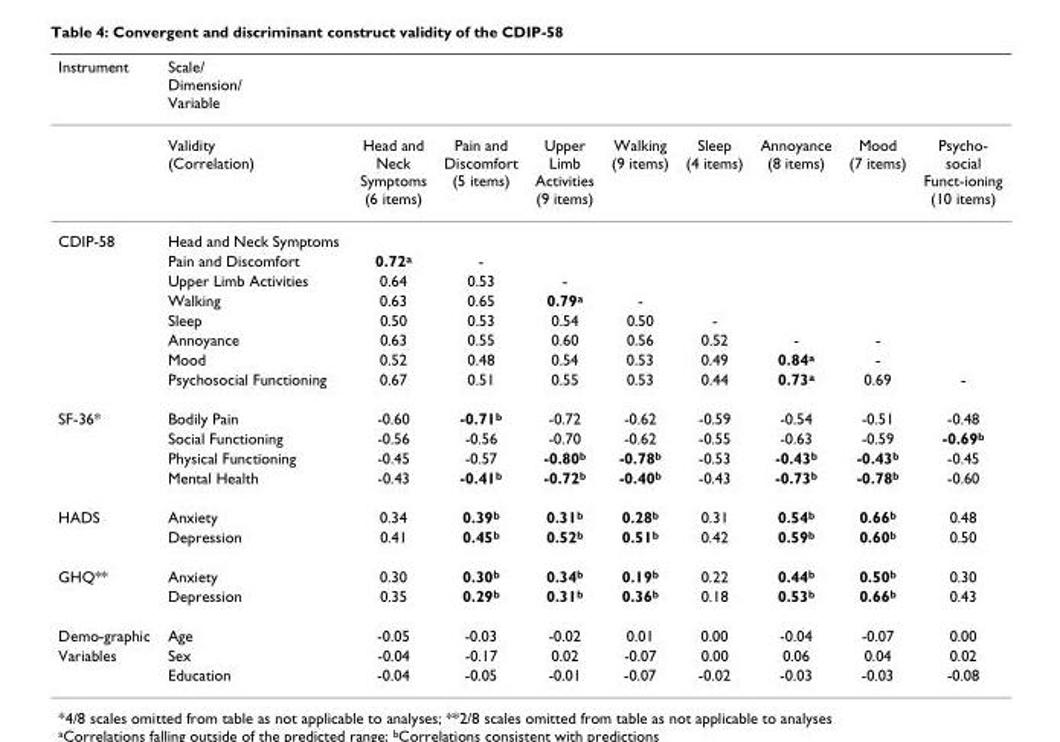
<table><thead><tr><td>Instrument</td><td>Scale/ Dimension/ Variable</td><td></td><td></td><td></td><td></td><td></td><td></td><td></td><td></td></tr></thead><tbody><tr><td></td><td>Validity (Correlation)</td><td>Head and Neck Symptoms (6 items)</td><td>Pain and Discomfort (5 items)</td><td>Upper Limb Activities (9 items)</td><td>Walking (9 items)</td><td>Sleep (4 items)</td><td>Annoyance (8 items)</td><td>Mood (7 items)</td><td>Psycho- social Funct-ioning (10 items)</td></tr><tr><td rowspan="8">CDIP-58</td><td>Head and Neck Symptoms</td><td></td><td></td><td></td><td></td><td></td><td></td><td></td><td></td></tr><tr><td>Pain and Discomfort</td><td>0.72<sup>a</sup></td><td>-</td><td></td><td></td><td></td><td></td><td></td><td></td></tr><tr><td>Upper Limb Activities</td><td>0.64</td><td>0.53</td><td>-</td><td></td><td></td><td></td><td></td><td></td></tr><tr><td>Walking</td><td>0.63</td><td>0.65</td><td>0.79<sup>a</sup></td><td>-</td><td></td><td></td><td></td><td></td></tr><tr><td>Sleep</td><td>0.50</td><td>0.53</td><td>0.54</td><td>0.50</td><td>-</td><td></td><td></td><td></td></tr><tr><td>Annoyance</td><td>0.63</td><td>0.55</td><td>0.60</td><td>0.56</td><td>0.52</td><td>-</td><td>-</td><td></td></tr><tr><td>Mood</td><td>0.52</td><td>0.48</td><td>0.54</td><td>0.53</td><td>0.49</td><td>0.84<sup>a</sup></td><td>-</td><td></td></tr><tr><td>Psychosocial Functioning</td><td>0.67</td><td>0.51</td><td>0.55</td><td>0.53</td><td>0.44</td><td>0.73<sup>a</sup></td><td>0.69</td><td>-</td></tr><tr><td rowspan="4">SF-36*</td><td>Bodily Pain</td><td>-0.60</td><td>-0.71<sup>b</sup></td><td>-0.72</td><td>-0.62</td><td>-0.59</td><td>-0.54</td><td>-0.51</td><td>-0.48</td></tr><tr><td>Social Functioning</td><td>-0.56</td><td>-0.56</td><td>-0.70</td><td>-0.62</td><td>-0.55</td><td>-0.63</td><td>-0.59</td><td>-0.69<sup>b</sup></td></tr><tr><td>Physical Functioning</td><td>-0.45</td><td>-0.57</td><td>-0.80<sup>b</sup></td><td>-0.78<sup>b</sup></td><td>-0.53</td><td>-0.43<sup>b</sup></td><td>-0.43<sup>b</sup></td><td>-0.45</td></tr><tr><td>Mental Health</td><td>-0.43</td><td>-0.41<sup>b</sup></td><td>-0.72<sup>b</sup></td><td>-0.40<sup>b</sup></td><td>-0.43</td><td>-0.73<sup>b</sup></td><td>-0.78<sup>b</sup></td><td>-0.60</td></tr><tr><td rowspan="2">HADS</td><td>Anxiety</td><td>0.34</td><td>0.39<sup>b</sup></td><td>0.31<sup>b</sup></td><td>0.28<sup>b</sup></td><td>0.31</td><td>0.54<sup>b</sup></td><td>0.66<sup>b</sup></td><td>0.48</td></tr><tr><td>Depression</td><td>0.41</td><td>0.45<sup>b</sup></td><td>0.52<sup>b</sup></td><td>0.51<sup>b</sup></td><td>0.42</td><td>0.59<sup>b</sup></td><td>0.60<sup>b</sup></td><td>0.50</td></tr><tr><td rowspan="2">GHQ**</td><td>Anxiety</td><td>0.30</td><td>0.30<sup>b</sup></td><td>0.34<sup>b</sup></td><td>0.19<sup>b</sup></td><td>0.22</td><td>0.44<sup>b</sup></td><td>0.50<sup>b</sup></td><td>0.30</td></tr><tr><td>Depression</td><td>0.35</td><td>0.29<sup>b</sup></td><td>0.31<sup>b</sup></td><td>0.36<sup>b</sup></td><td>0.18</td><td>0.53<sup>b</sup></td><td>0.66<sup>b</sup></td><td>0.43</td></tr><tr><td>Demo-graphic</td><td>Age</td><td>-0.05</td><td>-0.03</td><td>-0.02</td><td>0.01</td><td>0.00</td><td>-0.04</td><td>-0.07</td><td>0.00</td></tr><tr><td rowspan="2">Variables</td><td>Sex</td><td>-0.04</td><td>-0.17</td><td>0.02</td><td>-0.07</td><td>0.00</td><td>0.06</td><td>0.04</td><td>0.02</td></tr><tr><td>Education</td><td>-0.04</td><td>-0.05</td><td>-0.01</td><td>-0.07</td><td>-0.02</td><td>-0.03</td><td>-0.03</td><td>-0.08</td></tr></tbody></table>